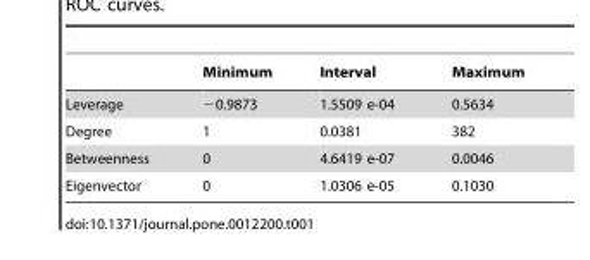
<table><thead><tr><td></td><td>Minimum</td><td>Interval</td><td>Maximum</td></tr></thead><tbody><tr><td>Leverage</td><td>−0.9873</td><td>1.5509 e-04</td><td>0.5634</td></tr><tr><td>Degree</td><td>1</td><td>0.0381</td><td>382</td></tr><tr><td>Betweenness</td><td>0</td><td>4.6419 e-07</td><td>0.0046</td></tr><tr><td>Eigenvector</td><td>0</td><td>1.0306 e-05</td><td>0.1030</td></tr></tbody></table>